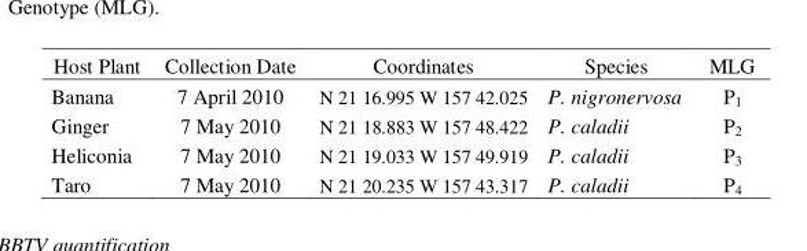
<table><thead><tr><td>Host Plant</td><td>Collection Date</td><td>Coordinates</td><td>Species</td><td>MLG</td></tr></thead><tbody><tr><td>Banana</td><td>7 April 2010</td><td>N 21 16.995 W 157 42.025</td><td>P. nigronervosa</td><td>P<sub>1</sub></td></tr><tr><td>Ginger</td><td>7 May 2010</td><td>N 21 18.883 W 157 48.422</td><td>P. caladii</td><td>P<sub>2</sub></td></tr><tr><td>Heliconia</td><td>7 May 2010</td><td>N 21 19.033 W 157 49.919</td><td>P. caladii</td><td>P<sub>3</sub></td></tr><tr><td>Taro</td><td>7 May 2010</td><td>N 21 20.235 W 157 43.317</td><td>P. caladii</td><td>P<sub>4</sub></td></tr></tbody></table>